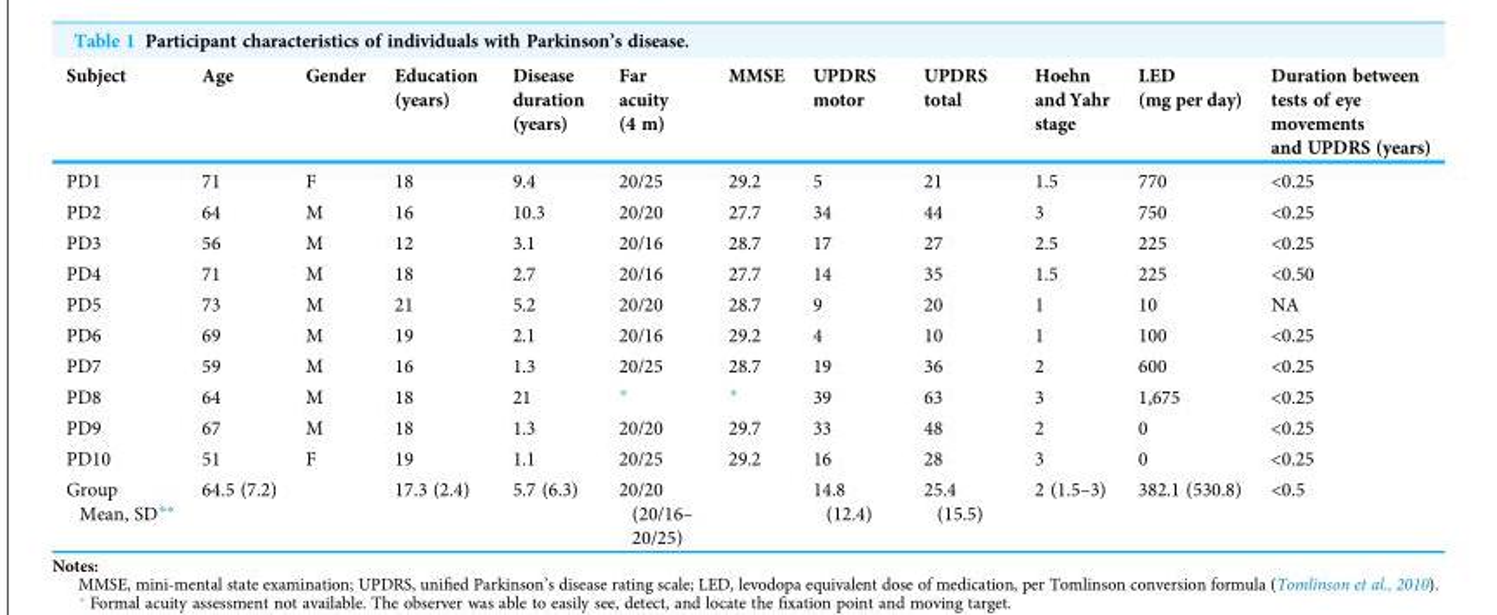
<table><thead><tr><td>Subject</td><td>Age</td><td>Gender</td><td>Education (years)</td><td>Disease duration (years)</td><td>Far acuity (4 m)</td><td>MMSE</td><td>UPDRS motor</td><td>UPDRS total</td><td>Hoehn and Yahr stage</td><td>LED (mg per day)</td><td>Duration between tests of eye movements and UPDRS (years)</td></tr></thead><tbody><tr><td>PD1</td><td>71</td><td>F</td><td>18</td><td>9.4</td><td>20/25</td><td>29.2</td><td>5</td><td>21</td><td>1.5</td><td>770</td><td>&lt;0.25</td></tr><tr><td>PD2</td><td>64</td><td>M</td><td>16</td><td>10.3</td><td>20/20</td><td>27.7</td><td>34</td><td>44</td><td>3</td><td>750</td><td>&lt;0.25</td></tr><tr><td>PD3</td><td>56</td><td>M</td><td>12</td><td>3.1</td><td>20/16</td><td>28.7</td><td>17</td><td>27</td><td>2.5</td><td>225</td><td>&lt;0.25</td></tr><tr><td>PD4</td><td>71</td><td>M</td><td>18</td><td>2.7</td><td>20/16</td><td>27.7</td><td>14</td><td>35</td><td>1.5</td><td>225</td><td>&lt;0.50</td></tr><tr><td>PD5</td><td>73</td><td>M</td><td>21</td><td>5.2</td><td>20/20</td><td>28.7</td><td>9</td><td>20</td><td>1</td><td>10</td><td>NA</td></tr><tr><td>PD6</td><td>69</td><td>M</td><td>19</td><td>2.1</td><td>20/16</td><td>29.2</td><td>4</td><td>10</td><td>1</td><td>100</td><td>&lt;0.25</td></tr><tr><td>PD7</td><td>59</td><td>M</td><td>16</td><td>1.3</td><td>20/25</td><td>28.7</td><td>19</td><td>36</td><td>2</td><td>600</td><td>&lt;0.25</td></tr><tr><td>PD8</td><td>64</td><td>M</td><td>18</td><td>21</td><td>*</td><td>*</td><td>39</td><td>63</td><td>3</td><td>1,675</td><td>&lt;0.25</td></tr><tr><td>PD9</td><td>67</td><td>M</td><td>18</td><td>1.3</td><td>20/20</td><td>29.7</td><td>33</td><td>48</td><td>2</td><td>0</td><td>&lt;0.25</td></tr><tr><td>PD10</td><td>51</td><td>F</td><td>19</td><td>1.1</td><td>20/25</td><td>29.2</td><td>16</td><td>28</td><td>3</td><td>0</td><td>&lt;0.25</td></tr><tr><td>Group Mean, SD**</td><td>64.5 (7.2)</td><td></td><td>17.3 (2.4)</td><td>5.7 (6.3)</td><td>20/20 (20/16– 20/25)</td><td></td><td>14.8 (12.4)</td><td>25.4 (15.5)</td><td>2 (1.5–3)</td><td>382.1 (530.8)</td><td>&lt;0.5</td></tr></tbody></table>